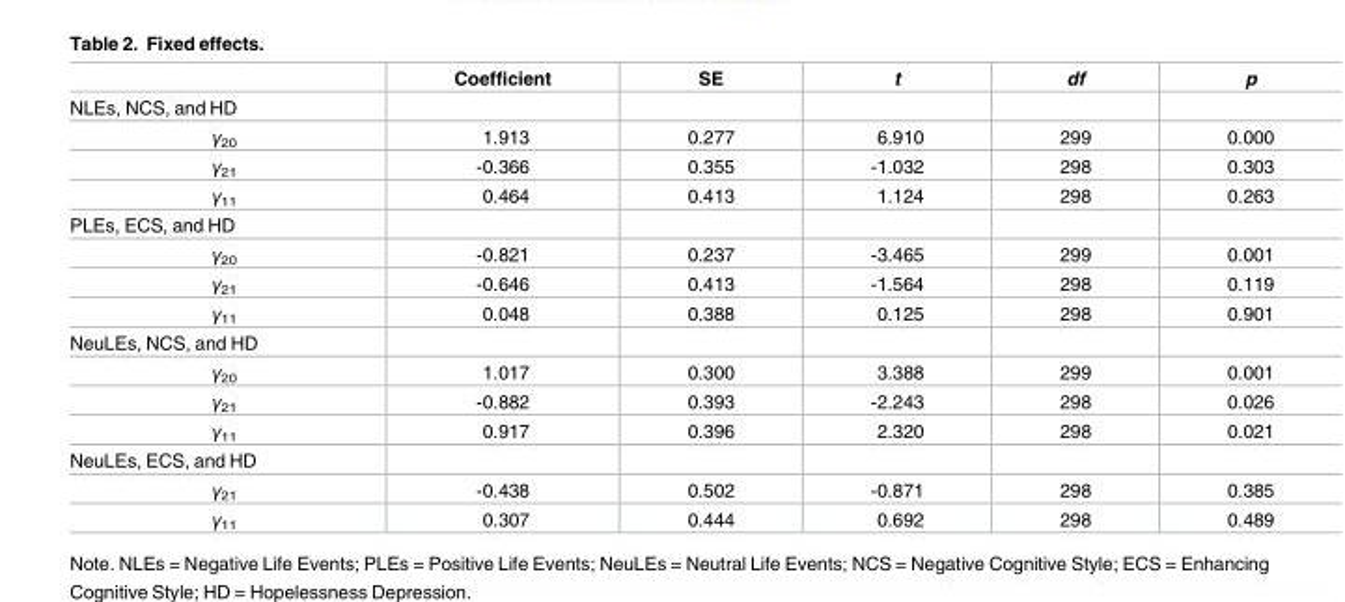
<table><thead><tr><td></td><td>Coefficient</td><td>SE</td><td>t</td><td>df</td><td>p</td></tr></thead><tbody><tr><td colspan="6">NLEs, NCS, and HD</td></tr><tr><td>γ<sub>20</sub></td><td>1.913</td><td>0.277</td><td>6.910</td><td>299</td><td>0.000</td></tr><tr><td>γ<sub>21</sub></td><td>-0.366</td><td>0.355</td><td>-1.032</td><td>298</td><td>0.303</td></tr><tr><td>γ<sub>11</sub></td><td>0.464</td><td>0.413</td><td>1.124</td><td>298</td><td>0.263</td></tr><tr><td colspan="6">PLEs, ECS, and HD</td></tr><tr><td>γ<sub>20</sub></td><td>-0.821</td><td>0.237</td><td>-3.465</td><td>299</td><td>0.001</td></tr><tr><td>γ<sub>21</sub></td><td>-0.646</td><td>0.413</td><td>-1.564</td><td>298</td><td>0.119</td></tr><tr><td>γ<sub>11</sub></td><td>0.048</td><td>0.388</td><td>0.125</td><td>298</td><td>0.901</td></tr><tr><td colspan="6">NeuLEs, NCS, and HD</td></tr><tr><td>γ<sub>20</sub></td><td>1.017</td><td>0.300</td><td>3.388</td><td>299</td><td>0.001</td></tr><tr><td>γ<sub>21</sub></td><td>-0.882</td><td>0.393</td><td>-2.243</td><td>298</td><td>0.026</td></tr><tr><td>γ<sub>11</sub></td><td>0.917</td><td>0.396</td><td>2.320</td><td>298</td><td>0.021</td></tr><tr><td colspan="6">NeuLEs, ECS, and HD</td></tr><tr><td>γ<sub>21</sub></td><td>-0.438</td><td>0.502</td><td>-0.871</td><td>298</td><td>0.385</td></tr><tr><td>γ<sub>11</sub></td><td>0.307</td><td>0.444</td><td>0.692</td><td>298</td><td>0.489</td></tr></tbody></table>